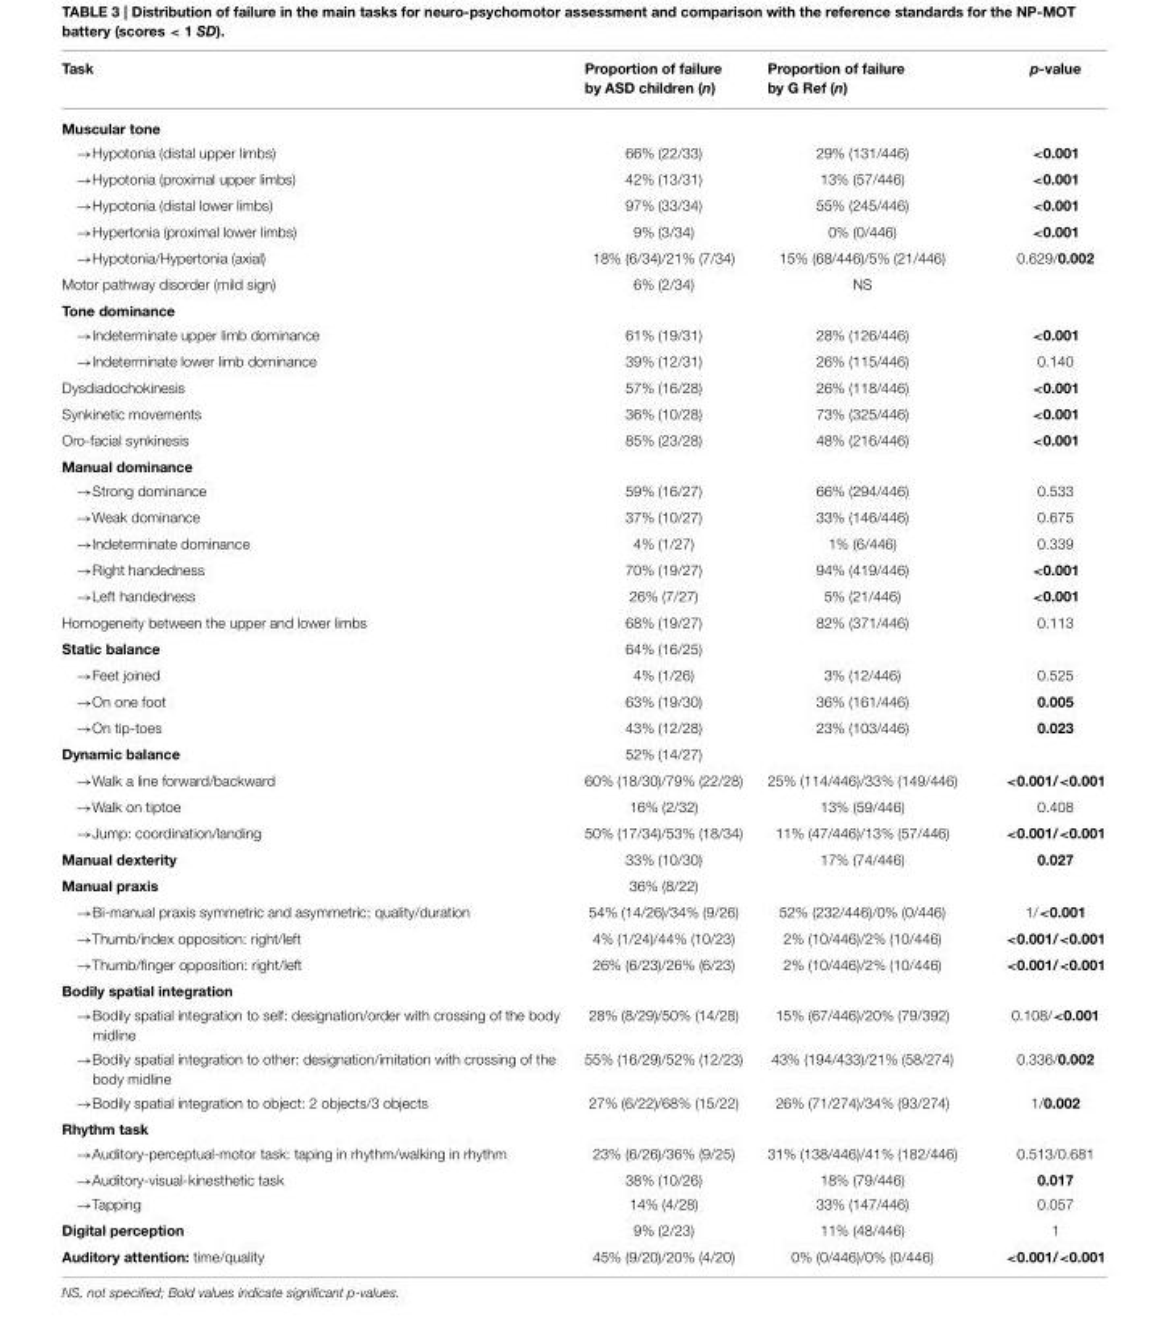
<table><thead><tr><td>Task</td><td>Proportion of failure by ASD children (n)</td><td>Proportion of failure by G Ref (n)</td><td>p-value</td></tr></thead><tbody><tr><td colspan="4">Muscular tone</td></tr><tr><td>→Hypotonia (distal upper limbs)</td><td>66% (22/33)</td><td>29% (131/446)</td><td>&lt;0.001</td></tr><tr><td>→Hypotonia (proximal upper limbs)</td><td>42% (13/31)</td><td>13% (57/446)</td><td>&lt;0.001</td></tr><tr><td>→Hypotonia (distal lower limbs)</td><td>97% (33/34)</td><td>55% (245/446)</td><td>&lt;0.001</td></tr><tr><td>→Hypertonia (proximal lower limbs)</td><td>9% (3/34)</td><td>0% (0/446)</td><td>&lt;0.001</td></tr><tr><td>→Hypotonia/Hypertonia (axial)</td><td>18% (6/34)/21% (7/34)</td><td>15% (68/446)/5% (21/446)</td><td>0.629/0.002</td></tr><tr><td>Motor pathway disorder (mild sign)</td><td>6% (2/34)</td><td>NS</td><td></td></tr><tr><td colspan="4">Tone dominance</td></tr><tr><td>→Indeterminate upper limb dominance</td><td>61% (19/31)</td><td>28% (126/446)</td><td>&lt;0.001</td></tr><tr><td>→Indeterminate lower limb dominance</td><td>39% (12/31)</td><td>26% (115/446)</td><td>0.140</td></tr><tr><td>Dysdiadochokinesis</td><td>57% (16/28)</td><td>26% (118/446)</td><td>&lt;0.001</td></tr><tr><td>Synkinetic movements</td><td>36% (10/28)</td><td>73% (325/446)</td><td>&lt;0.001</td></tr><tr><td>Oro-facial synkinesis</td><td>85% (23/28)</td><td>48% (216/446)</td><td>&lt;0.001</td></tr><tr><td colspan="4">Manual dominance</td></tr><tr><td>→Strong dominance</td><td>59% (16/27)</td><td>66% (294/446)</td><td>0.533</td></tr><tr><td>→Weak dominance</td><td>37% (10/27)</td><td>33% (146/446)</td><td>0.675</td></tr><tr><td>→Indeterminate dominance</td><td>4% (1/27)</td><td>1% (6/446)</td><td>0.339</td></tr><tr><td>→Right handedness</td><td>70% (19/27)</td><td>94% (419/446)</td><td>&lt;0.001</td></tr><tr><td>→Left handedness</td><td>26% (7/27)</td><td>5% (21/446)</td><td>&lt;0.001</td></tr><tr><td>Homogeneity between the upper and lower limbs</td><td>68% (19/27)</td><td>82% (371/446)</td><td>0.113</td></tr><tr><td>Static balance</td><td>64% (16/25)</td><td></td><td></td></tr><tr><td>→Feet joined</td><td>4% (1/26)</td><td>3% (12/446)</td><td>0.525</td></tr><tr><td>→On one foot</td><td>63% (19/30)</td><td>36% (161/446)</td><td>0.005</td></tr><tr><td>→On tip-toes</td><td>43% (12/28)</td><td>23% (103/446)</td><td>0.023</td></tr><tr><td>Dynamic balance</td><td>52% (14/27)</td><td></td><td></td></tr><tr><td>→Walk a line forward/backward</td><td>60% (18/30)/79% (22/28)</td><td>25% (114/446)/33% (149/446)</td><td>&lt;0.001/&lt;0.001</td></tr><tr><td>→Walk on tiptoe</td><td>16% (2/32)</td><td>13% (59/446)</td><td>0.408</td></tr><tr><td>→Jump: coordination/landing</td><td>50% (17/34)/53% (18/34)</td><td>11% (47/446)/13% (57/446)</td><td>&lt;0.001/&lt;0.001</td></tr><tr><td>Manual dexterity</td><td>33% (10/30)</td><td>17% (74/446)</td><td>0.027</td></tr><tr><td>Manual praxis</td><td>36% (8/22)</td><td></td><td></td></tr><tr><td>→Bi-manual praxis symmetric and asymmetric; quality/duration</td><td>54% (14/26)/34% (9/26)</td><td>52% (232/446)/0% (0/446)</td><td>1/&lt;0.001</td></tr><tr><td>→Thumb/index opposition: right/left</td><td>4% (1/24)/44% (10/23)</td><td>2% (10/446)/2% (10/446)</td><td>&lt;0.001/&lt;0.001</td></tr><tr><td>→Thumb/finger opposition: right/left</td><td>26% (6/23)/26% (6/23)</td><td>2% (10/446)/2% (10/446)</td><td>&lt;0.001/&lt;0.001</td></tr><tr><td colspan="4">Bodily spatial integration</td></tr><tr><td>→Bodily spatial integration to self: designation/order with crossing of the body midline</td><td>28% (8/29)/50% (14/28)</td><td>15% (67/446)/20% (79/392)</td><td>0.108/&lt;0.001</td></tr><tr><td>→Bodily spatial integration to other: designation/imitation with crossing of the body midline</td><td>55% (16/29)/52% (12/23)</td><td>43% (194/433)/21% (58/274)</td><td>0.336/0.002</td></tr><tr><td>→Bodily spatial integration to object: 2 objects/3 objects</td><td>27% (6/22)/68% (15/22)</td><td>26% (71/274)/34% (93/274)</td><td>1/0.002</td></tr><tr><td colspan="4">Rhythm task</td></tr><tr><td>→Auditory-perceptual-motor task: taping in rhythm/walking in rhythm</td><td>23% (6/26)/36% (9/25)</td><td>31% (138/446)/41% (182/446)</td><td>0.513/0.681</td></tr><tr><td>→Auditory-visual-kinesthetic task</td><td>38% (10/26)</td><td>18% (79/446)</td><td>0.017</td></tr><tr><td>→Tapping</td><td>14% (4/28)</td><td>33% (147/446)</td><td>0.057</td></tr><tr><td>Digital perception</td><td>9% (2/23)</td><td>11% (48/446)</td><td>1</td></tr><tr><td>Auditory attention: time/quality</td><td>45% (9/20)/20% (4/20)</td><td>0% (0/446)/0% (0/446)</td><td>&lt;0.001/&lt;0.001</td></tr></tbody></table>